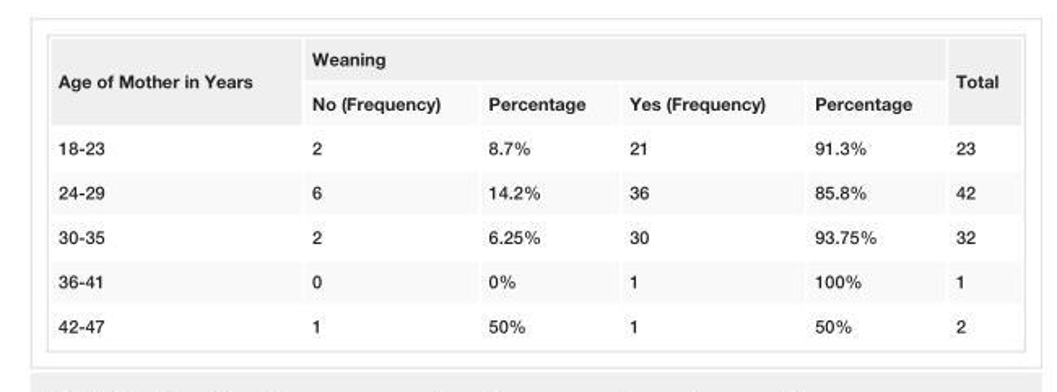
<table><tbody><tr><td rowspan="2">Age of Mother in Years</td><td colspan="4">Weaning</td><td rowspan="2">Total</td></tr><tr><td>No (Frequency)</td><td>Percentage</td><td>Yes (Frequency)</td><td>Percentage</td></tr><tr><td>18-23</td><td>2</td><td>8.7%</td><td>21</td><td>91.3%</td><td>23</td></tr><tr><td>24-29</td><td>6</td><td>14.2%</td><td>36</td><td>85.8%</td><td>42</td></tr><tr><td>30-35</td><td>2</td><td>6.25%</td><td>30</td><td>93.75%</td><td>32</td></tr><tr><td>36-41</td><td>0</td><td>0%</td><td>1</td><td>100%</td><td>1</td></tr><tr><td>42-47</td><td>1</td><td>50%</td><td>1</td><td>50%</td><td>2</td></tr></tbody></table>